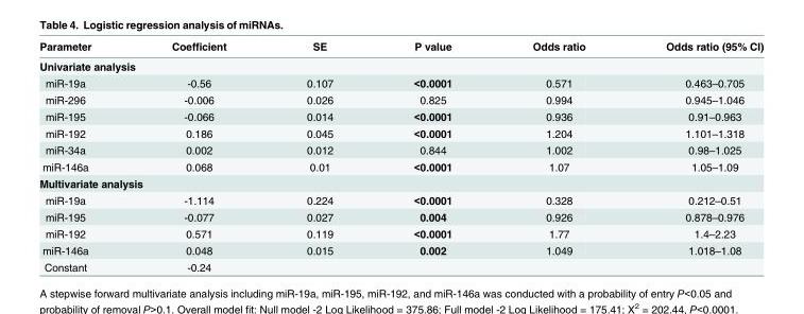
<table><thead><tr><td>Parameter</td><td>Coefficient</td><td>SE</td><td>P value</td><td>Odds ratio</td><td>Odds ratio (95% CI)</td></tr></thead><tbody><tr><td colspan="6">Univariate analysis</td></tr><tr><td>miR-19a</td><td>-0.56</td><td>0.107</td><td>&lt;0.0001</td><td>0.571</td><td>0.463–0.705</td></tr><tr><td>miR-296</td><td>-0.006</td><td>0.026</td><td>0.825</td><td>0.994</td><td>0.945–1.046</td></tr><tr><td>miR-195</td><td>-0.066</td><td>0.014</td><td>&lt;0.0001</td><td>0.936</td><td>0.91–0.963</td></tr><tr><td>miR-192</td><td>0.186</td><td>0.045</td><td>&lt;0.0001</td><td>1.204</td><td>1.101–1.318</td></tr><tr><td>miR-34a</td><td>0.002</td><td>0.012</td><td>0.844</td><td>1.002</td><td>0.98–1.025</td></tr><tr><td>miR-146a</td><td>0.068</td><td>0.01</td><td>&lt;0.0001</td><td>1.07</td><td>1.05–1.09</td></tr><tr><td colspan="6">Multivariate analysis</td></tr><tr><td>miR-19a</td><td>-1.114</td><td>0.224</td><td>&lt;0.0001</td><td>0.328</td><td>0.212–0.51</td></tr><tr><td>miR-195</td><td>-0.077</td><td>0.027</td><td>0.004</td><td>0.926</td><td>0.878–0.976</td></tr><tr><td>miR-192</td><td>0.571</td><td>0.119</td><td>&lt;0.0001</td><td>1.77</td><td>1.4–2.23</td></tr><tr><td>miR-146a</td><td>0.048</td><td>0.015</td><td>0.002</td><td>1.049</td><td>1.018–1.08</td></tr><tr><td>Constant</td><td>-0.24</td><td></td><td></td><td></td><td></td></tr></tbody></table>